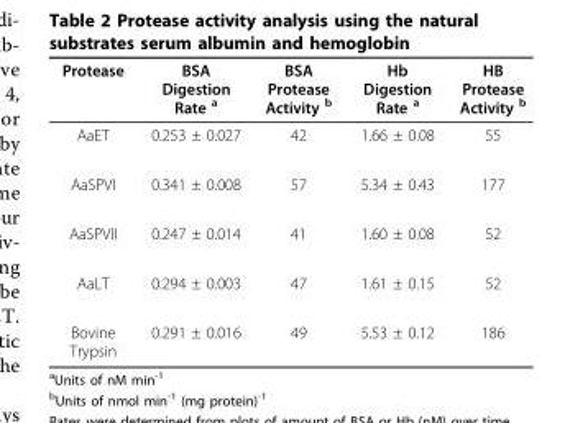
<table><thead><tr><td>Protease</td><td>BSA Digestion Rate <sup>a</sup></td><td>BSA Protease Activity <sup>b</sup></td><td>Hb Digestion Rate <sup>a</sup></td><td>HB Protease Activity <sup>b</sup></td></tr></thead><tbody><tr><td>AaET</td><td>0.253 ± 0.027</td><td>42</td><td>1.66 ± 0.08</td><td>55</td></tr><tr><td>AaSPVI</td><td>0.341 ± 0.008</td><td>57</td><td>5.34 ± 0.43</td><td>177</td></tr><tr><td>AaSPVII</td><td>0.247 ± 0.014</td><td>41</td><td>1.60 ± 0.08</td><td>52</td></tr><tr><td>AaLT</td><td>0.294 ± 0.003</td><td>47</td><td>1.61 ± 0.15</td><td>52</td></tr><tr><td>Bovine Trypsin</td><td>0.291 ± 0.016</td><td>49</td><td>5.53 ± 0.12</td><td>186</td></tr></tbody></table>